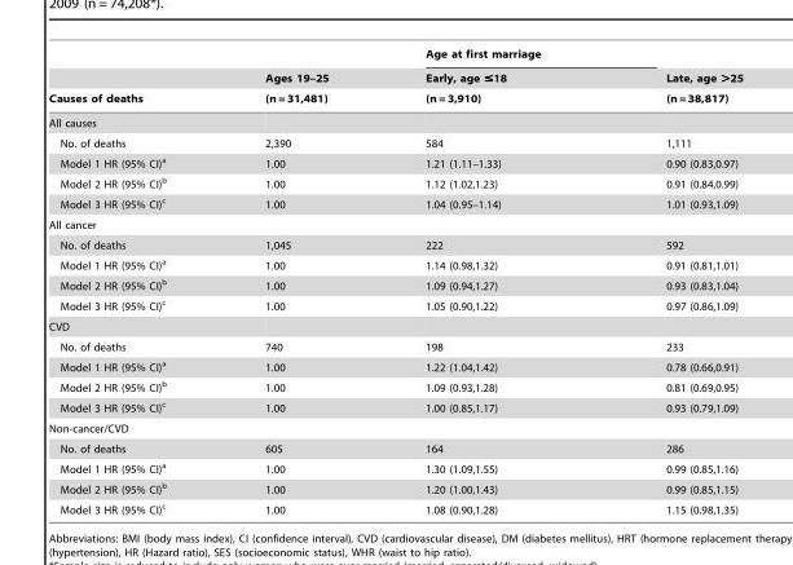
<table><thead><tr><td rowspan="3">Causes of deaths</td><td rowspan="3">Ages 19–25 (n = 31,481)</td><td rowspan="3">Age at first marriage Early, age ≤18 (n = 3,910)</td><td rowspan="3">Late, age &gt;25 (n = 38,817)</td></tr><tr></tr><tr></tr></thead><tbody><tr><td colspan="4">All causes</td></tr><tr><td>No. of deaths</td><td>2,390</td><td>584</td><td>1,111</td></tr><tr><td>Model 1 HR (95% CI)<sup>a</sup></td><td>1.00</td><td>1.21 (1.11–1.33)</td><td>0.90 (0.83,0.97)</td></tr><tr><td>Model 2 HR (95% CI)<sup>b</sup></td><td>1.00</td><td>1.12 (1.02,1.23)</td><td>0.91 (0.84,0.99)</td></tr><tr><td>Model 3 HR (95% CI)<sup>c</sup></td><td>1.00</td><td>1.04 (0.95–1.14)</td><td>1.01 (0.93,1.09)</td></tr><tr><td colspan="4">All cancer</td></tr><tr><td>No. of deaths</td><td>1,045</td><td>222</td><td>592</td></tr><tr><td>Model 1 HR (95% CI)<sup>a</sup></td><td>1.00</td><td>1.14 (0.98,1.32)</td><td>0.91 (0.81,1.01)</td></tr><tr><td>Model 2 HR (95% CI)<sup>b</sup></td><td>1.00</td><td>1.09 (0.94,1.27)</td><td>0.93 (0.83,1.04)</td></tr><tr><td>Model 3 HR (95% CI)<sup>c</sup></td><td>1.00</td><td>1.05 (0.90,1.22)</td><td>0.97 (0.86,1.09)</td></tr><tr><td colspan="4">CVD</td></tr><tr><td>No. of deaths</td><td>740</td><td>198</td><td>233</td></tr><tr><td>Model 1 HR (95% CI)<sup>a</sup></td><td>1.00</td><td>1.22 (1.04,1.42)</td><td>0.78 (0.66,0.91)</td></tr><tr><td>Model 2 HR (95% CI)<sup>b</sup></td><td>1.00</td><td>1.09 (0.93,1.28)</td><td>0.81 (0.69,0.95)</td></tr><tr><td>Model 3 HR (95% CI)<sup>c</sup></td><td>1.00</td><td>1.00 (0.85,1.17)</td><td>0.93 (0.79,1.09)</td></tr><tr><td colspan="4">Non-cancer/CVD</td></tr><tr><td>No. of deaths</td><td>605</td><td>164</td><td>286</td></tr><tr><td>Model 1 HR (95% CI)<sup>a</sup></td><td>1.00</td><td>1.30 (1.09,1.55)</td><td>0.99 (0.85,1.16)</td></tr><tr><td>Model 2 HR (95% CI)<sup>b</sup></td><td>1.00</td><td>1.20 (1.00,1.43)</td><td>0.99 (0.85,1.15)</td></tr><tr><td>Model 3 HR (95% CI)<sup>c</sup></td><td>1.00</td><td>1.08 (0.90,1.28)</td><td>1.15 (0.98,1.35)</td></tr></tbody></table>